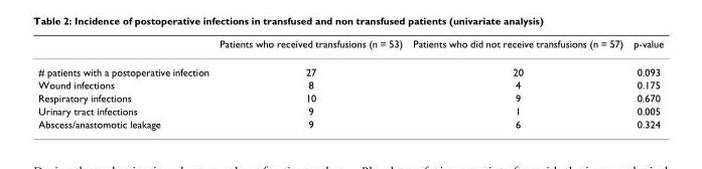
<table><thead><tr><td></td><td>Patients who received transfusions (n = 53)</td><td>Patients who did not receive transfusions (n = 57)</td><td>p-value</td></tr></thead><tbody><tr><td># patients with a postoperative infection</td><td>27</td><td>20</td><td>0.093</td></tr><tr><td>Wound infections</td><td>8</td><td>4</td><td>0.175</td></tr><tr><td>Respiratory infections</td><td>10</td><td>9</td><td>0.670</td></tr><tr><td>Urinary tract infections</td><td>9</td><td>1</td><td>0.005</td></tr><tr><td>Abscess/anastomotic leakage</td><td>9</td><td>6</td><td>0.324</td></tr></tbody></table>